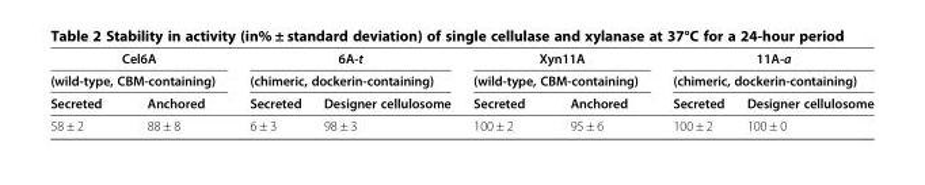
<table><thead><tr><td rowspan="2" colspan="2">Cel6A (wild-type, CBM-containing)</td><td rowspan="2" colspan="2">6A-t (chimeric, dockerin-containing)</td><td rowspan="2" colspan="2">Xyn11A (wild-type, CBM-containing)</td><td rowspan="2" colspan="2">11A-a (chimeric, dockerin-containing)</td></tr><tr></tr><tr><td>Secreted</td><td>Anchored</td><td>Secreted</td><td>Designer cellulosome</td><td>Secreted</td><td>Anchored</td><td>Secreted</td><td>Designer cellulosome</td></tr></thead><tbody><tr><td>58 ± 2</td><td>88 ± 8</td><td>6 ± 3</td><td>98 ± 3</td><td>100 ± 2</td><td>95 ± 6</td><td>100 ± 2</td><td>100 ± 0</td></tr></tbody></table>